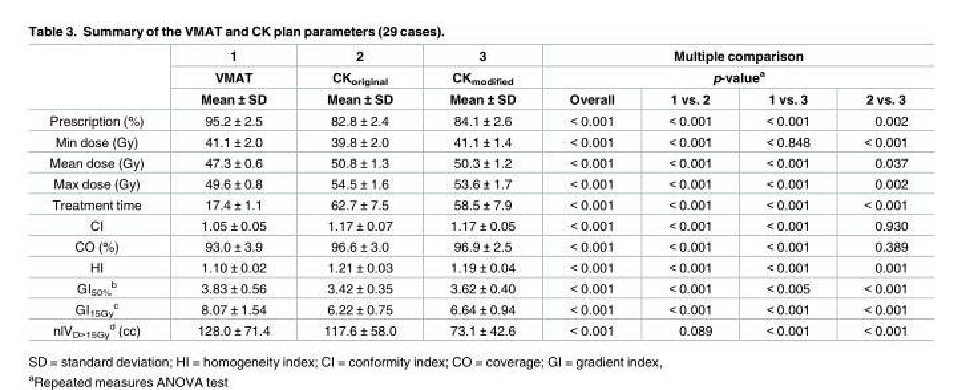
<table><thead><tr><td rowspan="3"></td><td rowspan="3">1 VMAT Mean ± SD</td><td rowspan="3">2 CK<sub>original</sub> Mean ± SD</td><td rowspan="3">3 CK<sub>modified</sub> Mean ± SD</td><td rowspan="2" colspan="4">Multiple comparison p-value<sup>a</sup></td></tr><tr></tr><tr><td>Overall</td><td>1 vs. 2</td><td>1 vs. 3</td><td>2 vs. 3</td></tr></thead><tbody><tr><td>Prescription (%)</td><td>95.2 ± 2.5</td><td>82.8 ± 2.4</td><td>84.1 ± 2.6</td><td>&lt; 0.001</td><td>&lt; 0.001</td><td>&lt; 0.001</td><td>0.002</td></tr><tr><td>Min dose (Gy)</td><td>41.1 ± 2.0</td><td>39.8 ± 2.0</td><td>41.1 ± 1.4</td><td>&lt; 0.001</td><td>&lt; 0.001</td><td>&lt; 0.848</td><td>&lt; 0.001</td></tr><tr><td>Mean dose (Gy)</td><td>47.3 ± 0.6</td><td>50.8 ± 1.3</td><td>50.3 ± 1.2</td><td>&lt; 0.001</td><td>&lt; 0.001</td><td>&lt; 0.001</td><td>0.037</td></tr><tr><td>Max dose (Gy)</td><td>49.6 ± 0.8</td><td>54.5 ± 1.6</td><td>53.6 ± 1.7</td><td>&lt; 0.001</td><td>&lt; 0.001</td><td>&lt; 0.001</td><td>0.002</td></tr><tr><td>Treatment time</td><td>17.4 ± 1.1</td><td>62.7 ± 7.5</td><td>58.5 ± 7.9</td><td>&lt; 0.001</td><td>&lt; 0.001</td><td>&lt; 0.001</td><td>&lt; 0.001</td></tr><tr><td>CI</td><td>1.05 ± 0.05</td><td>1.17 ± 0.07</td><td>1.17 ± 0.05</td><td>&lt; 0.001</td><td>&lt; 0.001</td><td>&lt; 0.001</td><td>0.930</td></tr><tr><td>CO (%)</td><td>93.0 ± 3.9</td><td>96.6 ± 3.0</td><td>96.9 ± 2.5</td><td>&lt; 0.001</td><td>&lt; 0.001</td><td>&lt; 0.001</td><td>0.389</td></tr><tr><td>HI</td><td>1.10 ± 0.02</td><td>1.21 ± 0.03</td><td>1.19 ± 0.04</td><td>&lt; 0.001</td><td>&lt; 0.001</td><td>&lt; 0.001</td><td>0.001</td></tr><tr><td>GI<sub>50%</sub> <sup>b</sup></td><td>3.83 ± 0.56</td><td>3.42 ± 0.35</td><td>3.62 ± 0.40</td><td>&lt; 0.001</td><td>&lt; 0.001</td><td>&lt; 0.005</td><td>&lt; 0.001</td></tr><tr><td>GI<sub>15Gy</sub> <sup>c</sup></td><td>8.07 ± 1.54</td><td>6.22 ± 0.75</td><td>6.64 ± 0.94</td><td>&lt; 0.001</td><td>&lt; 0.001</td><td>&lt; 0.001</td><td>&lt; 0.001</td></tr><tr><td>nlV<sub>D&gt;15Gy</sub> <sup>d</sup> (cc)</td><td>128.0 ± 71.4</td><td>117.6 ± 58.0</td><td>73.1 ± 42.6</td><td>&lt; 0.001</td><td>0.089</td><td>&lt; 0.001</td><td>&lt; 0.001</td></tr></tbody></table>